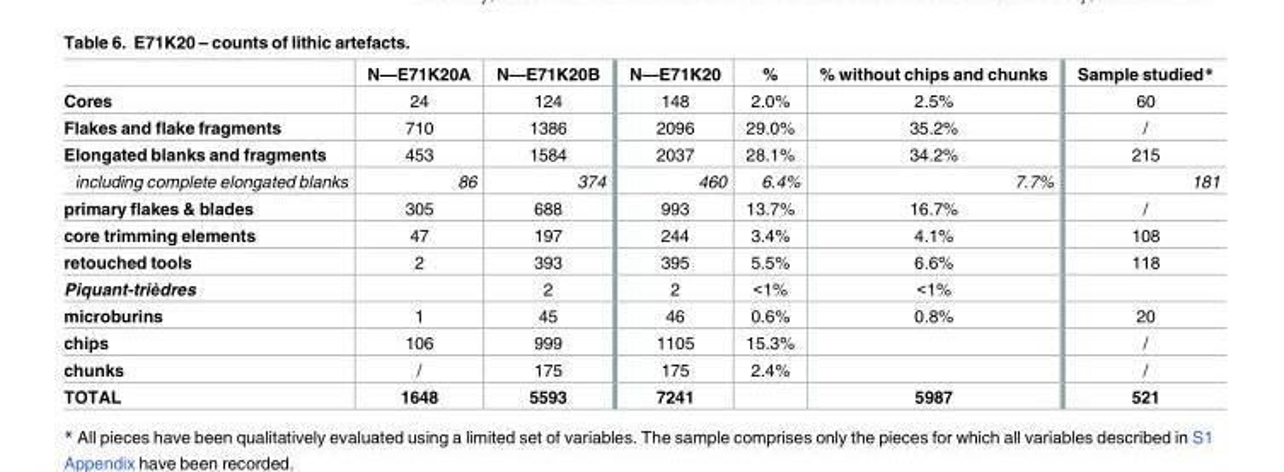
<table><thead><tr><td></td><td>N—E71K20A</td><td>N—E71K20B</td><td>N—E71K20</td><td>%</td><td>% without chips and chunks</td><td>Sample studied*</td></tr></thead><tbody><tr><td>Cores</td><td>24</td><td>124</td><td>148</td><td>2.0%</td><td>2.5%</td><td>60</td></tr><tr><td>Flakes and flake fragments</td><td>710</td><td>1386</td><td>2096</td><td>29.0%</td><td>35.2%</td><td>/</td></tr><tr><td>Elongated blanks and fragments</td><td>453</td><td>1584</td><td>2037</td><td>28.1%</td><td>34.2%</td><td>215</td></tr><tr><td>including complete elongated blanks</td><td>86</td><td>374</td><td>460</td><td>6.4%</td><td>7.7%</td><td>181</td></tr><tr><td>primary flakes &amp; blades</td><td>305</td><td>688</td><td>993</td><td>13.7%</td><td>16.7%</td><td>/</td></tr><tr><td>core trimming elements</td><td>47</td><td>197</td><td>244</td><td>3.4%</td><td>4.1%</td><td>108</td></tr><tr><td>retouched tools</td><td>2</td><td>393</td><td>395</td><td>5.5%</td><td>6.6%</td><td>118</td></tr><tr><td>Piquant-trièdres</td><td></td><td>2</td><td>2</td><td>&lt;1%</td><td>&lt;1%</td><td></td></tr><tr><td>microburins</td><td>1</td><td>45</td><td>46</td><td>0.6%</td><td>0.8%</td><td>20</td></tr><tr><td>chips</td><td>106</td><td>999</td><td>1105</td><td>15.3%</td><td></td><td>/</td></tr><tr><td>chunks</td><td>/</td><td>175</td><td>175</td><td>2.4%</td><td></td><td>/</td></tr><tr><td>TOTAL</td><td>1648</td><td>5593</td><td>7241</td><td></td><td>5987</td><td>521</td></tr></tbody></table>